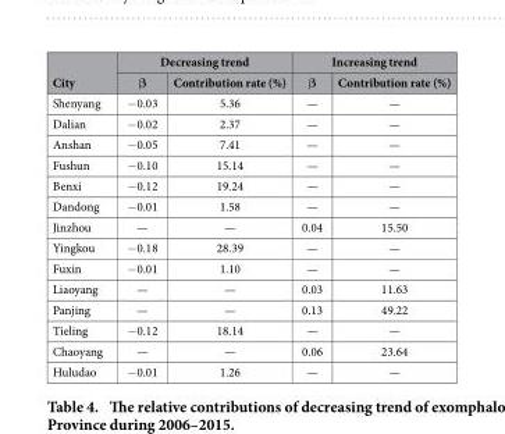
<table><thead><tr><td rowspan="2">City</td><td colspan="2">Decreasing trend</td><td colspan="2">Increasing trend</td></tr><tr><td>β</td><td>Contribution rate (%)</td><td>β</td><td>Contribution rate (%)</td></tr></thead><tbody><tr><td>Shenyang</td><td>− 0.03</td><td>5.36</td><td>—</td><td>—</td></tr><tr><td>Dalian</td><td>− 0.02</td><td>2.37</td><td>—</td><td>—</td></tr><tr><td>Anshan</td><td>− 0.05</td><td>7.41</td><td>—</td><td>—</td></tr><tr><td>Fushun</td><td>− 0.10</td><td>15.14</td><td>—</td><td>—</td></tr><tr><td>Benxi</td><td>− 0.12</td><td>19.24</td><td>—</td><td>—</td></tr><tr><td>Dandong</td><td>− 0.01</td><td>1.58</td><td>—</td><td>—</td></tr><tr><td>Jinzhou</td><td>—</td><td>—</td><td>0.04</td><td>15.50</td></tr><tr><td>Yingkou</td><td>− 0.18</td><td>28.39</td><td>—</td><td>—</td></tr><tr><td>Fuxin</td><td>− 0.01</td><td>1.10</td><td>—</td><td>—</td></tr><tr><td>Liaoyang</td><td>—</td><td>—</td><td>0.03</td><td>11.63</td></tr><tr><td>Panjing</td><td>—</td><td>—</td><td>0.13</td><td>49.22</td></tr><tr><td>Tieling</td><td>− 0.12</td><td>18.14</td><td>—</td><td>—</td></tr><tr><td>Chaoyang</td><td>—</td><td>—</td><td>0.06</td><td>23.64</td></tr><tr><td>Huludao</td><td>− 0.01</td><td>1.26</td><td>—</td><td>—</td></tr></tbody></table>